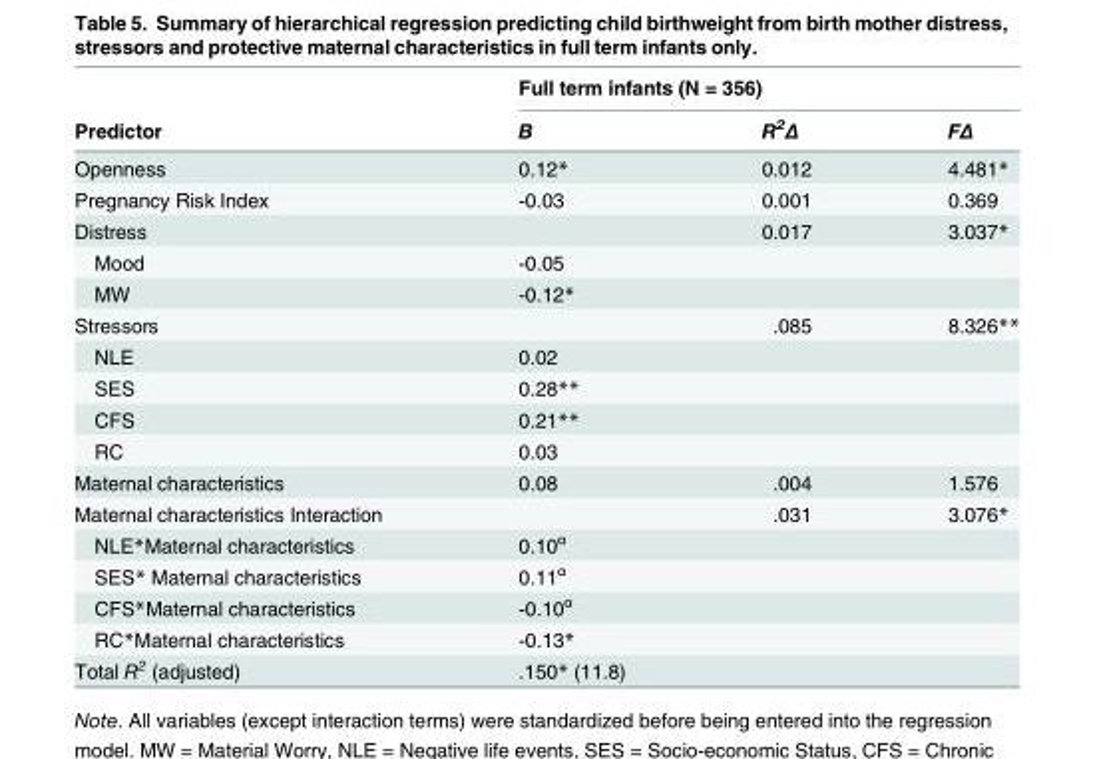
<table><thead><tr><td rowspan="2">Predictor</td><td colspan="3">Full term infants (N = 356)</td></tr><tr><td>B</td><td>R<sup>2</sup>Δ</td><td>FΔ</td></tr></thead><tbody><tr><td>Openness</td><td>0.12*</td><td>0.012</td><td>4.481*</td></tr><tr><td>Pregnancy Risk Index</td><td>-0.03</td><td>0.001</td><td>0.369</td></tr><tr><td>Distress</td><td></td><td>0.017</td><td>3.037*</td></tr><tr><td>Mood</td><td>-0.05</td><td></td><td></td></tr><tr><td>MW</td><td>-0.12*</td><td></td><td></td></tr><tr><td>Stressors</td><td></td><td>.085</td><td>8.326**</td></tr><tr><td>NLE</td><td>0.02</td><td></td><td></td></tr><tr><td>SES</td><td>0.28**</td><td></td><td></td></tr><tr><td>CFS</td><td>0.21**</td><td></td><td></td></tr><tr><td>RC</td><td>0.03</td><td></td><td></td></tr><tr><td>Maternal characteristics</td><td>0.08</td><td>.004</td><td>1.576</td></tr><tr><td>Maternal characteristics Interaction</td><td></td><td>.031</td><td>3.076*</td></tr><tr><td>NLE*Maternal characteristics</td><td>0.10<sup>α</sup></td><td></td><td></td></tr><tr><td>SES* Maternal characteristics</td><td>0.11<sup>α</sup></td><td></td><td></td></tr><tr><td>CFS*Maternal characteristics</td><td>-0.10<sup>α</sup></td><td></td><td></td></tr><tr><td>RC*Maternal characteristics</td><td>-0.13*</td><td></td><td></td></tr><tr><td>Total R<sup>2</sup> (adjusted)</td><td>.150* (11.8)</td><td></td><td></td></tr></tbody></table>